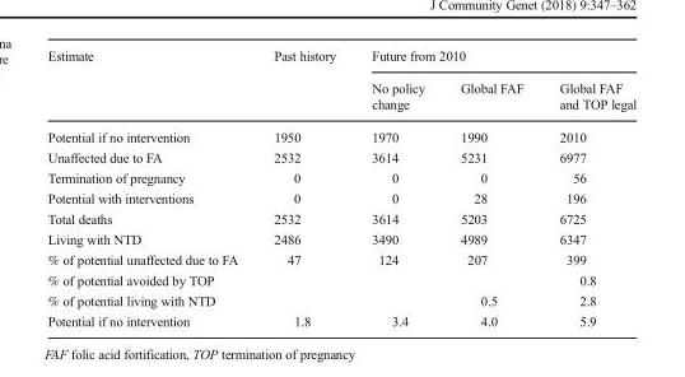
<table><thead><tr><td rowspan="2">Estimate</td><td rowspan="2">Past history</td><td colspan="3">Future from 2010</td></tr><tr><td>No policy change</td><td>Global FAF</td><td>Global FAF and TOP legal</td></tr></thead><tbody><tr><td>Potential if no intervention</td><td>1950</td><td>1970</td><td>1990</td><td>2010</td></tr><tr><td>Unaffected due to FA</td><td>2532</td><td>3614</td><td>5231</td><td>6977</td></tr><tr><td>Termination of pregnancy</td><td>0</td><td>0</td><td>0</td><td>56</td></tr><tr><td>Potential with interventions</td><td>0</td><td>0</td><td>28</td><td>196</td></tr><tr><td>Total deaths</td><td>2532</td><td>3614</td><td>5203</td><td>6725</td></tr><tr><td>Living with NTD</td><td>2486</td><td>3490</td><td>4989</td><td>6347</td></tr><tr><td>% of potential unaffected due to FA</td><td>47</td><td>124</td><td>207</td><td>399</td></tr><tr><td>% of potential avoided by TOP</td><td></td><td></td><td></td><td>0.8</td></tr><tr><td>% of potential living with NTD</td><td></td><td></td><td>0.5</td><td>2.8</td></tr><tr><td>Potential if no intervention</td><td>1.8</td><td>3.4</td><td>4.0</td><td>5.9</td></tr></tbody></table>